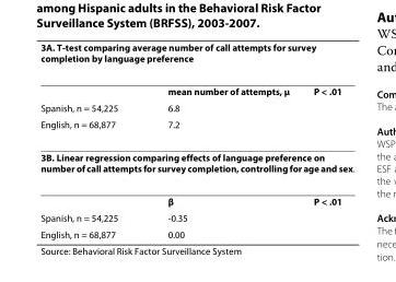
<table><thead><tr><td colspan="3">3A. T-test comparing average number of call attempts for survey completion by language preference</td></tr><tr><td></td><td>mean number of attempts, μ</td><td>P &lt; .01</td></tr></thead><tbody><tr><td>Spanish, n = 54,225</td><td>6.8</td><td></td></tr><tr><td>English, n = 68,877</td><td>7.2</td><td></td></tr><tr><td colspan="3">3B. Linear regression comparing effects of language preference on number of call attempts for survey completion, controlling for age and sex.</td></tr><tr><td></td><td>β</td><td>P &lt; .01</td></tr><tr><td>Spanish, n = 54,225</td><td>-0.35</td><td></td></tr><tr><td>English, n = 68,877</td><td>0.00</td><td></td></tr></tbody></table>